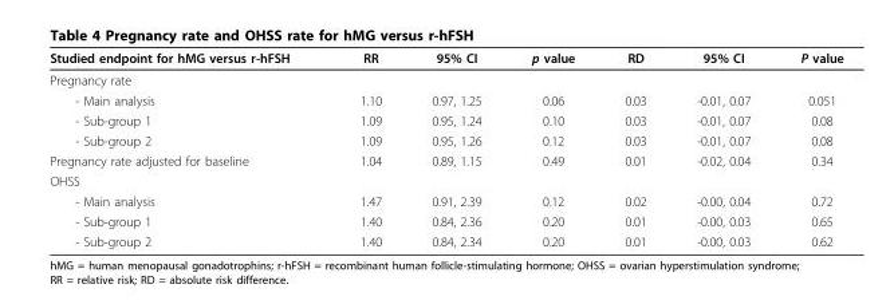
<table><thead><tr><td>Studied endpoint for hMG versus r-hFSH</td><td>RR</td><td>95% CI</td><td>p value</td><td>RD</td><td>95% CI</td><td>P value</td></tr></thead><tbody><tr><td colspan="7">Pregnancy rate</td></tr><tr><td>- Main analysis</td><td>1.10</td><td>0.97, 1.25</td><td>0.06</td><td>0.03</td><td>-0.01, 0.07</td><td>0.051</td></tr><tr><td>- Sub-group 1</td><td>1.09</td><td>0.95, 1.24</td><td>0.10</td><td>0.03</td><td>-0.01, 0.07</td><td>0.08</td></tr><tr><td>- Sub-group 2</td><td>1.09</td><td>0.95, 1.26</td><td>0.12</td><td>0.03</td><td>-0.01, 0.07</td><td>0.08</td></tr><tr><td>Pregnancy rate adjusted for baseline</td><td>1.04</td><td>0.89, 1.15</td><td>0.49</td><td>0.01</td><td>-0.02, 0.04</td><td>0.34</td></tr><tr><td colspan="7">OHSS</td></tr><tr><td>- Main analysis</td><td>1.47</td><td>0.91, 2.39</td><td>0.12</td><td>0.02</td><td>-0.00, 0.04</td><td>0.72</td></tr><tr><td>- Sub-group 1</td><td>1.40</td><td>0.84, 2.36</td><td>0.20</td><td>0.01</td><td>-0.00, 0.03</td><td>0.65</td></tr><tr><td>- Sub-group 2</td><td>1.40</td><td>0.84, 2.34</td><td>0.20</td><td>0.01</td><td>-0.00, 0.03</td><td>0.62</td></tr></tbody></table>